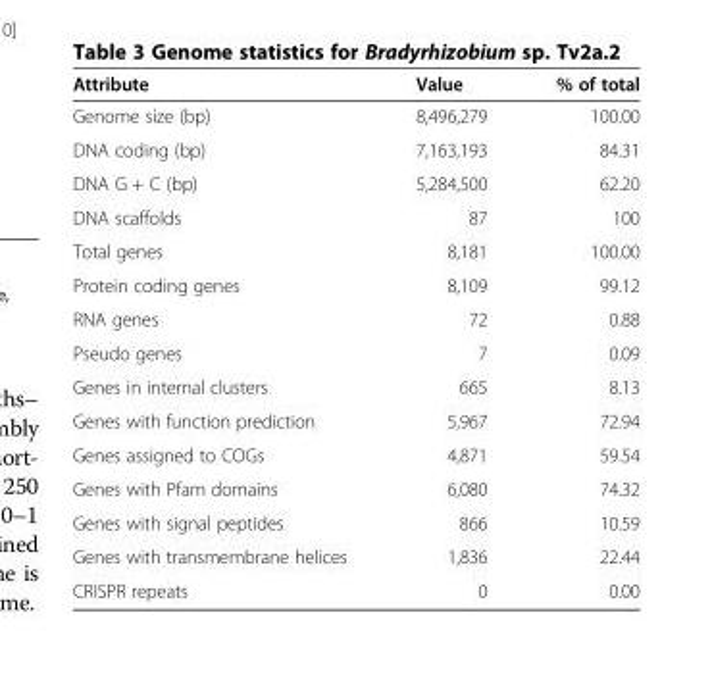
<table><thead><tr><td>Attribute</td><td>Value</td><td>% of total</td></tr></thead><tbody><tr><td>Genome size (bp)</td><td>8,496,279</td><td>100.00</td></tr><tr><td>DNA coding (bp)</td><td>7,163,193</td><td>84.31</td></tr><tr><td>DNA G + C (bp)</td><td>5,284,500</td><td>62.20</td></tr><tr><td>DNA scaffolds</td><td>87</td><td>100</td></tr><tr><td>Total genes</td><td>8,181</td><td>100.00</td></tr><tr><td>Protein coding genes</td><td>8,109</td><td>99.12</td></tr><tr><td>RNA genes</td><td>72</td><td>0.88</td></tr><tr><td>Pseudo genes</td><td>7</td><td>0.09</td></tr><tr><td>Genes in internal clusters</td><td>665</td><td>8.13</td></tr><tr><td>Genes with function prediction</td><td>5,967</td><td>72.94</td></tr><tr><td>Genes assigned to COGs</td><td>4,871</td><td>59.54</td></tr><tr><td>Genes with Pfam domains</td><td>6,080</td><td>74.32</td></tr><tr><td>Genes with signal peptides</td><td>866</td><td>10.59</td></tr><tr><td>Genes with transmembrane helices</td><td>1,836</td><td>22.44</td></tr><tr><td>CRISPR repeats</td><td>0</td><td>0.00</td></tr></tbody></table>